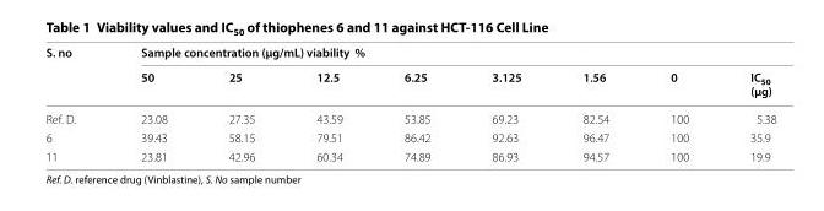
<table><thead><tr><td rowspan="2">S. no</td><td colspan="8">Sample concentration (μg/mL) viability %</td></tr><tr><td>50</td><td>25</td><td>12.5</td><td>6.25</td><td>3.125</td><td>1.56</td><td>0</td><td>IC<sub>50</sub> (μg)</td></tr></thead><tbody><tr><td>Ref. D.</td><td>23.08</td><td>27.35</td><td>43.59</td><td>53.85</td><td>69.23</td><td>82.54</td><td>100</td><td>5.38</td></tr><tr><td>6</td><td>39.43</td><td>58.15</td><td>79.51</td><td>86.42</td><td>92.63</td><td>96.47</td><td>100</td><td>35.9</td></tr><tr><td>11</td><td>23.81</td><td>42.96</td><td>60.34</td><td>74.89</td><td>86.93</td><td>94.57</td><td>100</td><td>19.9</td></tr></tbody></table>